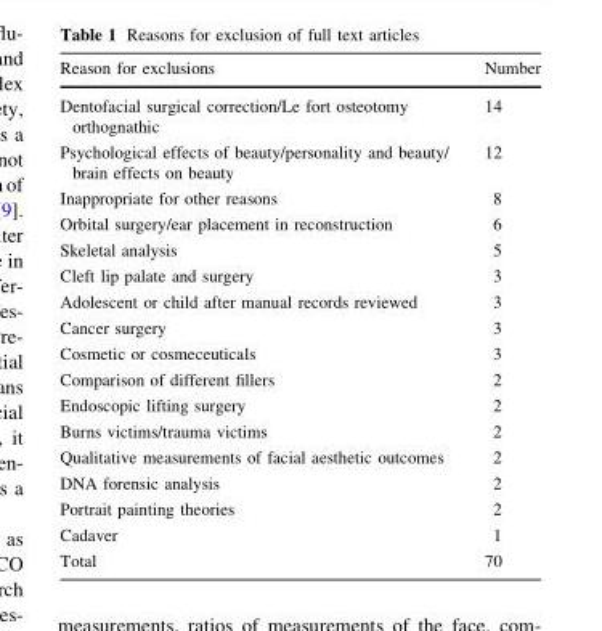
<table><thead><tr><td>Reason for exclusions</td><td>Number</td></tr></thead><tbody><tr><td>Dentofacial surgical correction/Le fort osteotomy orthognathic</td><td>14</td></tr><tr><td>Psychological effects of beauty/personality and beauty/ brain effects on beauty</td><td>12</td></tr><tr><td>Inappropriate for other reasons</td><td>8</td></tr><tr><td>Orbital surgery/ear placement in reconstruction</td><td>6</td></tr><tr><td>Skeletal analysis</td><td>5</td></tr><tr><td>Cleft lip palate and surgery</td><td>3</td></tr><tr><td>Adolescent or child after manual records reviewed</td><td>3</td></tr><tr><td>Cancer surgery</td><td>3</td></tr><tr><td>Cosmetic or cosmeceuticals</td><td>3</td></tr><tr><td>Comparison of different fillers</td><td>2</td></tr><tr><td>Endoscopic lifting surgery</td><td>2</td></tr><tr><td>Burns victims/trauma victims</td><td>2</td></tr><tr><td>Qualitative measurements of facial aesthetic outcomes</td><td>2</td></tr><tr><td>DNA forensic analysis</td><td>2</td></tr><tr><td>Portrait painting theories</td><td>2</td></tr><tr><td>Cadaver</td><td>1</td></tr><tr><td>Total</td><td>70</td></tr></tbody></table>